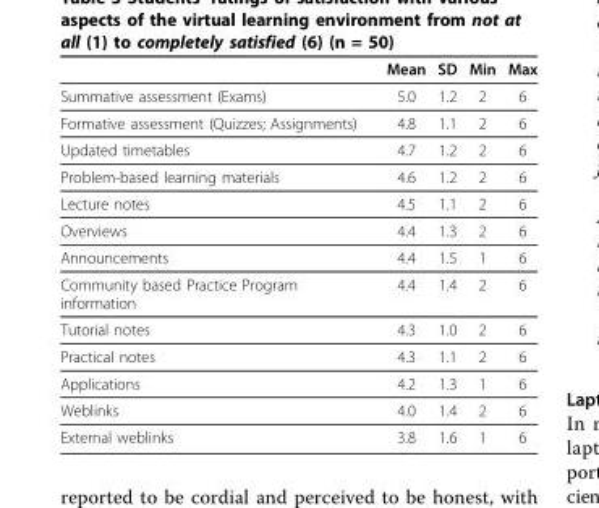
<table><thead><tr><td></td><td>Mean</td><td>SD</td><td>Min</td><td>Max</td></tr></thead><tbody><tr><td>Summative assessment (Exams)</td><td>5.0</td><td>1.2</td><td>2</td><td>6</td></tr><tr><td>Formative assessment (Quizzes; Assignments)</td><td>4.8</td><td>1.1</td><td>2</td><td>6</td></tr><tr><td>Updated timetables</td><td>4.7</td><td>1.2</td><td>2</td><td>6</td></tr><tr><td>Problem-based learning materials</td><td>4.6</td><td>1.2</td><td>2</td><td>6</td></tr><tr><td>Lecture notes</td><td>4.5</td><td>1.1</td><td>2</td><td>6</td></tr><tr><td>Overviews</td><td>4.4</td><td>1.3</td><td>2</td><td>6</td></tr><tr><td>Announcements</td><td>4.4</td><td>1.5</td><td>1</td><td>6</td></tr><tr><td>Community based Practice Program information</td><td>4.4</td><td>1.4</td><td>2</td><td>6</td></tr><tr><td>Tutorial notes</td><td>4.3</td><td>1.0</td><td>2</td><td>6</td></tr><tr><td>Practical notes</td><td>4.3</td><td>1.1</td><td>2</td><td>6</td></tr><tr><td>Applications</td><td>4.2</td><td>1.3</td><td>1</td><td>6</td></tr><tr><td>Weblinks</td><td>4.0</td><td>1.4</td><td>2</td><td>6</td></tr><tr><td>External weblinks</td><td>3.8</td><td>1.6</td><td>1</td><td>6</td></tr></tbody></table>